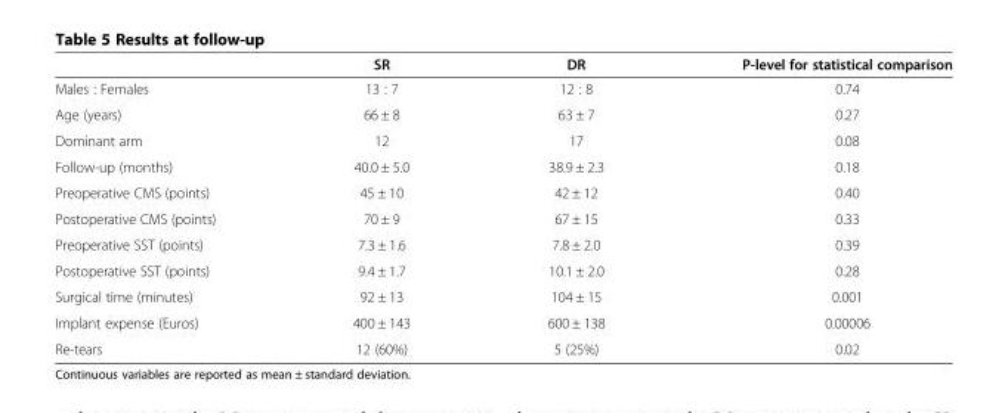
<table><thead><tr><td></td><td>SR</td><td>DR</td><td>P-level for statistical comparison</td></tr></thead><tbody><tr><td>Males : Females</td><td>13 : 7</td><td>12 : 8</td><td>0.74</td></tr><tr><td>Age (years)</td><td>66 ± 8</td><td>63 ± 7</td><td>0.27</td></tr><tr><td>Dominant arm</td><td>12</td><td>17</td><td>0.08</td></tr><tr><td>Follow-up (months)</td><td>40.0 ± 5.0</td><td>38.9 ± 2.3</td><td>0.18</td></tr><tr><td>Preoperative CMS (points)</td><td>45 ± 10</td><td>42 ± 12</td><td>0.40</td></tr><tr><td>Postoperative CMS (points)</td><td>70 ± 9</td><td>67 ± 15</td><td>0.33</td></tr><tr><td>Preoperative SST (points)</td><td>7.3 ± 1.6</td><td>7.8 ± 2.0</td><td>0.39</td></tr><tr><td>Postoperative SST (points)</td><td>9.4 ± 1.7</td><td>10.1 ± 2.0</td><td>0.28</td></tr><tr><td>Surgical time (minutes)</td><td>92 ± 13</td><td>104 ± 15</td><td>0.001</td></tr><tr><td>Implant expense (Euros)</td><td>400 ± 143</td><td>600 ± 138</td><td>0.00006</td></tr><tr><td>Re-tears</td><td>12 (60%)</td><td>5 (25%)</td><td>0.02</td></tr></tbody></table>